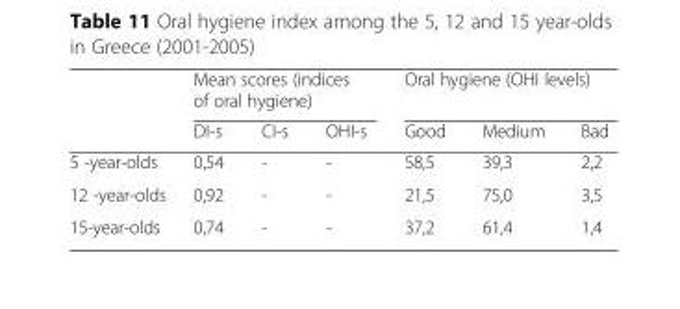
<table><thead><tr><td rowspan="2"></td><td colspan="3">Mean scores (indices of oral hygiene)</td><td colspan="3">Oral hygiene (OHI levels)</td></tr><tr><td>DI-s</td><td>CI-s</td><td>OHI-s</td><td>Good</td><td>Medium</td><td>Bad</td></tr></thead><tbody><tr><td>5 -year-olds</td><td>0,54</td><td>-</td><td>-</td><td>58,5</td><td>39,3</td><td>2,2</td></tr><tr><td>12 -year-olds</td><td>0,92</td><td>-</td><td>-</td><td>21,5</td><td>75,0</td><td>3,5</td></tr><tr><td>15-year-olds</td><td>0,74</td><td>-</td><td>-</td><td>37,2</td><td>61,4</td><td>1,4</td></tr></tbody></table>